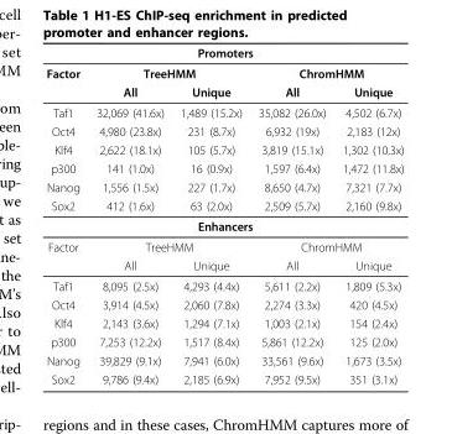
<table><thead><tr><td colspan="5">Promoters</td></tr><tr><td rowspan="2">Factor</td><td colspan="2">TreeHMM</td><td colspan="2">ChromHMM</td></tr><tr><td>All</td><td>Unique</td><td>All</td><td>Unique</td></tr></thead><tbody><tr><td>Taf1</td><td>32,069 (41.6x)</td><td>1,489 (15.2x)</td><td>35,082 (26.0x)</td><td>4,502 (6.7x)</td></tr><tr><td>Oct4</td><td>4,980 (23.8x)</td><td>231 (8.7x)</td><td>6,932 (19x)</td><td>2,183 (12x)</td></tr><tr><td>Klf4</td><td>2,622 (18.1x)</td><td>105 (5.7x)</td><td>3,819 (15.1x)</td><td>1,302 (10.3x)</td></tr><tr><td>p300</td><td>141 (1.0x)</td><td>16 (0.9x)</td><td>1,597 (6.4x)</td><td>1,472 (11.8x)</td></tr><tr><td>Nanog</td><td>1,556 (1.5x)</td><td>227 (1.7x)</td><td>8,650 (4.7x)</td><td>7,321 (7.7x)</td></tr><tr><td>Sox2</td><td>412 (1.6x)</td><td>63 (2.0x)</td><td>2,509 (5.7x)</td><td>2,160 (9.8x)</td></tr><tr><td colspan="5">Enhancers</td></tr><tr><td rowspan="2">Factor</td><td colspan="2">TreeHMM</td><td colspan="2">ChromHMM</td></tr><tr><td>All</td><td>Unique</td><td>All</td><td>Unique</td></tr><tr><td>Taf1</td><td>8,095 (2.5x)</td><td>4,293 (4.4x)</td><td>5,611 (2.2x)</td><td>1,809 (5.3x)</td></tr><tr><td>Oct4</td><td>3,914 (4.5x)</td><td>2,060 (7.8x)</td><td>2,274 (3.3x)</td><td>420 (4.5x)</td></tr><tr><td>Klf4</td><td>2,143 (3.6x)</td><td>1,294 (7.1x)</td><td>1,003 (2.1x)</td><td>154 (2.4x)</td></tr><tr><td>p300</td><td>7,253 (12.2x)</td><td>1,517 (8.4x)</td><td>5,861 (12.2x)</td><td>125 (2.0x)</td></tr><tr><td>Nanog</td><td>39,829 (9.1x)</td><td>7,941 (6.0x)</td><td>33,561 (9.6x)</td><td>1,673 (3.5x)</td></tr><tr><td>Sox2</td><td>9,786 (9.4x)</td><td>2,185 (6.9x)</td><td>7,952 (9.5x)</td><td>351 (3.1x)</td></tr></tbody></table>